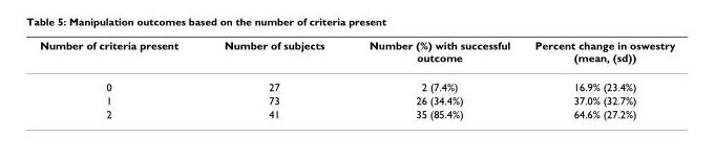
<table><thead><tr><td>Number of criteria present</td><td>Number of subjects</td><td>Number (%) with successful outcome</td><td>Percent change in oswestry (mean, (sd))</td></tr></thead><tbody><tr><td>0</td><td>27</td><td>2 (7.4%)</td><td>16.9% (23.4%)</td></tr><tr><td>1</td><td>73</td><td>26 (34.4%)</td><td>37.0% (32.7%)</td></tr><tr><td>2</td><td>41</td><td>35 (85.4%)</td><td>64.6% (27.2%)</td></tr></tbody></table>